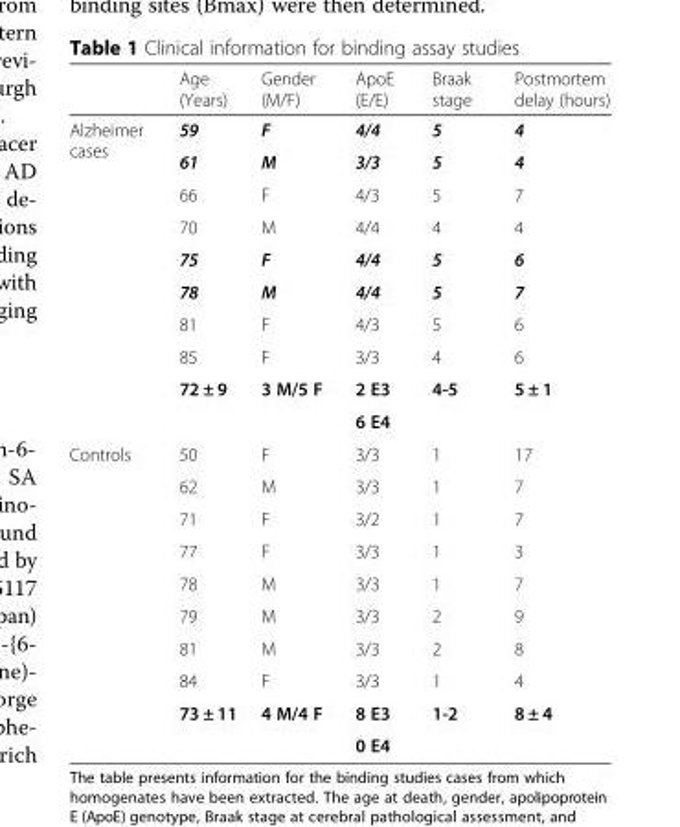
<table><thead><tr><td></td><td>Age (Years)</td><td>Gender (M/F)</td><td>ApoE (E/E)</td><td>Braak stage</td><td>Postmortem delay (hours)</td></tr></thead><tbody><tr><td rowspan="10">Alzheimer cases</td><td>59</td><td>F</td><td>4/4</td><td>5</td><td>4</td></tr><tr><td>61</td><td>M</td><td>3/3</td><td>5</td><td>4</td></tr><tr><td>66</td><td>F</td><td>4/3</td><td>5</td><td>7</td></tr><tr><td>70</td><td>M</td><td>4/4</td><td>4</td><td>4</td></tr><tr><td>75</td><td>F</td><td>4/4</td><td>5</td><td>6</td></tr><tr><td>78</td><td>M</td><td>4/4</td><td>5</td><td>7</td></tr><tr><td>81</td><td>F</td><td>4/3</td><td>5</td><td>6</td></tr><tr><td>85</td><td>F</td><td>3/3</td><td>4</td><td>6</td></tr><tr><td rowspan="2">72 ± 9</td><td rowspan="2">3 M/5 F</td><td>2 E3</td><td rowspan="2">4-5</td><td rowspan="2">5 ± 1</td></tr><tr><td>6 E4</td></tr><tr><td rowspan="10">Controls</td><td>50</td><td>F</td><td>3/3</td><td>1</td><td>17</td></tr><tr><td>62</td><td>M</td><td>3/3</td><td>1</td><td>7</td></tr><tr><td>71</td><td>F</td><td>3/2</td><td>1</td><td>7</td></tr><tr><td>77</td><td>F</td><td>3/3</td><td>1</td><td>3</td></tr><tr><td>78</td><td>M</td><td>3/3</td><td>1</td><td>7</td></tr><tr><td>79</td><td>M</td><td>3/3</td><td>2</td><td>9</td></tr><tr><td>81</td><td>M</td><td>3/3</td><td>2</td><td>8</td></tr><tr><td>84</td><td>F</td><td>3/3</td><td>1</td><td>4</td></tr><tr><td rowspan="2">73 ± 11</td><td rowspan="2">4 M/4 F</td><td>8 E3</td><td rowspan="2">1-2</td><td rowspan="2">8 ± 4</td></tr><tr><td>0 E4</td></tr></tbody></table>